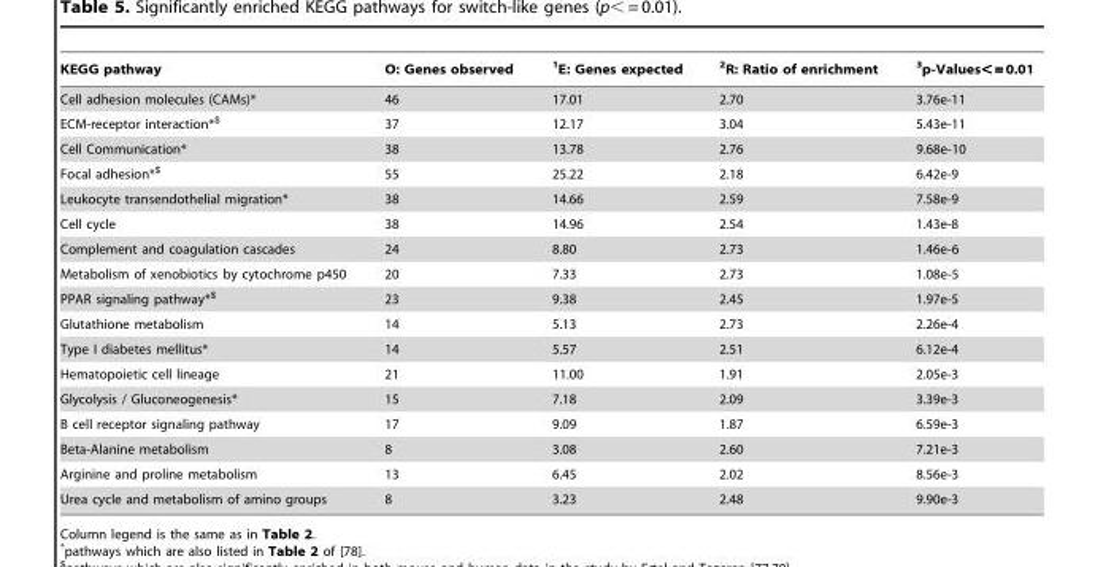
<table><thead><tr><td>KEGG pathway</td><td>O: Genes observed</td><td><sup>1</sup>E: Genes expected</td><td><sup>2</sup>R: Ratio of enrichment</td><td><sup>3</sup>p-Values&lt; = 0.01</td></tr></thead><tbody><tr><td>Cell adhesion molecules (CAMs)*</td><td>46</td><td>17.01</td><td>2.70</td><td>3.76e-11</td></tr><tr><td>ECM-receptor interaction*$</td><td>37</td><td>12.17</td><td>3.04</td><td>5.43e-11</td></tr><tr><td>Cell Communication*</td><td>38</td><td>13.78</td><td>2.76</td><td>9.68e-10</td></tr><tr><td>Focal adhesion*$</td><td>55</td><td>25.22</td><td>2.18</td><td>6.42e-9</td></tr><tr><td>Leukocyte transendothelial migration*</td><td>38</td><td>14.66</td><td>2.59</td><td>7.58e-9</td></tr><tr><td>Cell cycle</td><td>38</td><td>14.96</td><td>2.54</td><td>1.43e-8</td></tr><tr><td>Complement and coagulation cascades</td><td>24</td><td>8.80</td><td>2.73</td><td>1.46e-6</td></tr><tr><td>Metabolism of xenobiotics by cytochrome p450</td><td>20</td><td>7.33</td><td>2.73</td><td>1.08e-5</td></tr><tr><td>PPAR signaling pathway*$</td><td>23</td><td>9.38</td><td>2.45</td><td>1.97e-5</td></tr><tr><td>Glutathione metabolism</td><td>14</td><td>5.13</td><td>2.73</td><td>2.26e-4</td></tr><tr><td>Type I diabetes mellitus*</td><td>14</td><td>5.57</td><td>2.51</td><td>6.12e-4</td></tr><tr><td>Hematopoietic cell lineage</td><td>21</td><td>11.00</td><td>1.91</td><td>2.05e-3</td></tr><tr><td>Glycolysis / Gluconeogenesis*</td><td>15</td><td>7.18</td><td>2.09</td><td>3.39e-3</td></tr><tr><td>B cell receptor signaling pathway</td><td>17</td><td>9.09</td><td>1.87</td><td>6.59e-3</td></tr><tr><td>Beta-Alanine metabolism</td><td>8</td><td>3.08</td><td>2.60</td><td>7.21e-3</td></tr><tr><td>Arginine and proline metabolism</td><td>13</td><td>6.45</td><td>2.02</td><td>8.56e-3</td></tr><tr><td>Urea cycle and metabolism of amino groups</td><td>8</td><td>3.23</td><td>2.48</td><td>9.90e-3</td></tr></tbody></table>